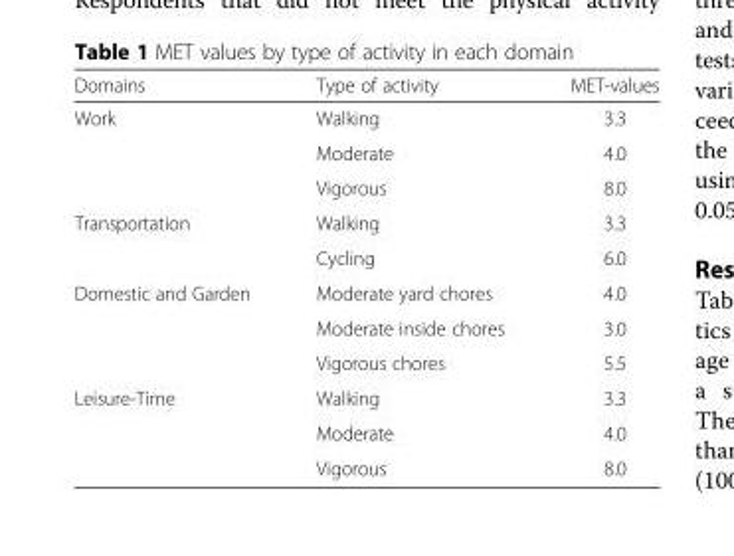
<table><thead><tr><td>Domains</td><td>Type of activity</td><td>MET-values</td></tr></thead><tbody><tr><td rowspan="3">Work</td><td>Walking</td><td>3.3</td></tr><tr><td>Moderate</td><td>4.0</td></tr><tr><td>Vigorous</td><td>8.0</td></tr><tr><td rowspan="2">Transportation</td><td>Walking</td><td>3.3</td></tr><tr><td>Cycling</td><td>6.0</td></tr><tr><td rowspan="3">Domestic and Garden</td><td>Moderate yard chores</td><td>4.0</td></tr><tr><td>Moderate inside chores</td><td>3.0</td></tr><tr><td>Vigorous chores</td><td>5.5</td></tr><tr><td rowspan="3">Leisure-Time</td><td>Walking</td><td>3.3</td></tr><tr><td>Moderate</td><td>4.0</td></tr><tr><td>Vigorous</td><td>8.0</td></tr></tbody></table>